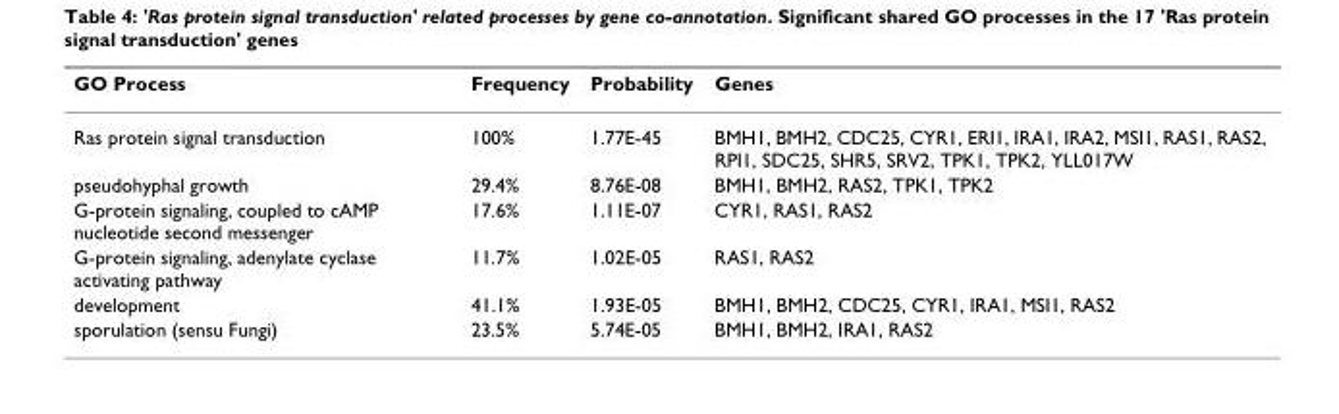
<table><thead><tr><td>GO Process</td><td>Frequency</td><td>Probability</td><td>Genes</td></tr></thead><tbody><tr><td>Ras protein signal transduction</td><td>100%</td><td>1.77E-45</td><td>BMH1, BMH2, CDC25, CYR1, ERI1, IRA1, IRA2, MSI1, RAS1, RAS2, RPI1, SDC25, SHR5, SRV2, TPK1, TPK2, YLL017W</td></tr><tr><td>pseudohyphal growth</td><td>29.4%</td><td>8.76E-08</td><td>BMH1, BMH2, RAS2, TPK1, TPK2</td></tr><tr><td>G-protein signaling, coupled to cAMP nucleotide second messenger</td><td>17.6%</td><td>1.11E-07</td><td>CYR1, RAS1, RAS2</td></tr><tr><td>G-protein signaling, adenylate cyclase activating pathway</td><td>11.7%</td><td>1.02E-05</td><td>RAS1, RAS2</td></tr><tr><td>development</td><td>41.1%</td><td>1.93E-05</td><td>BMH1, BMH2, CDC25, CYR1, IRA1, MSI1, RAS2</td></tr><tr><td>sporulation (sensu Fungi)</td><td>23.5%</td><td>5.74E-05</td><td>BMH1, BMH2, IRA1, RAS2</td></tr></tbody></table>